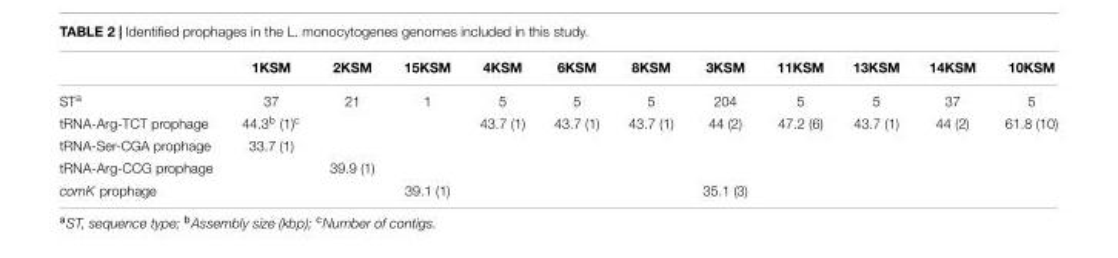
<table><thead><tr><td></td><td>1KSM</td><td>2KSM</td><td>15KSM</td><td>4KSM</td><td>6KSM</td><td>8KSM</td><td>3KSM</td><td>11KSM</td><td>13KSM</td><td>14KSM</td><td>10KSM</td></tr></thead><tbody><tr><td>ST<sup>a</sup></td><td>37</td><td>21</td><td>1</td><td>5</td><td>5</td><td>5</td><td>204</td><td>5</td><td>5</td><td>37</td><td>5</td></tr><tr><td>tRNA-Arg-TCT prophage</td><td>44.3<sup>b</sup> (1)<sup>c</sup></td><td></td><td></td><td>43.7 (1)</td><td>43.7 (1)</td><td>43.7 (1)</td><td>44 (2)</td><td>47.2 (6)</td><td>43.7 (1)</td><td>44 (2)</td><td>61.8 (10)</td></tr><tr><td>tRNA-Ser-CGA prophage</td><td>33.7 (1)</td><td></td><td></td><td></td><td></td><td></td><td></td><td></td><td></td><td></td><td></td></tr><tr><td>tRNA-Arg-CCG prophage</td><td></td><td>39.9 (1)</td><td></td><td></td><td></td><td></td><td></td><td></td><td></td><td></td><td></td></tr><tr><td>comK prophage</td><td></td><td></td><td>39.1 (1)</td><td></td><td></td><td></td><td>35.1 (3)</td><td></td><td></td><td></td><td></td></tr></tbody></table>